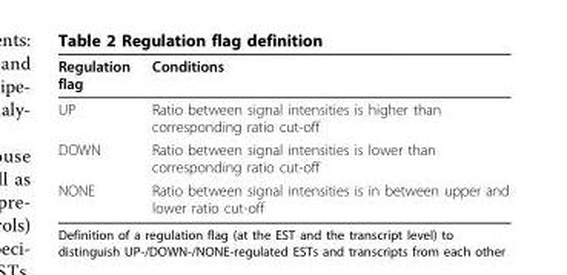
<table><thead><tr><td>Regulation flag</td><td>Conditions</td></tr></thead><tbody><tr><td>UP</td><td>Ratio between signal intensities is higher than corresponding ratio cut-off</td></tr><tr><td>DOWN</td><td>Ratio between signal intensities is lower than corresponding ratio cut-off</td></tr><tr><td>NONE</td><td>Ratio between signal intensities is in between upper and lower ratio cut-off</td></tr></tbody></table>